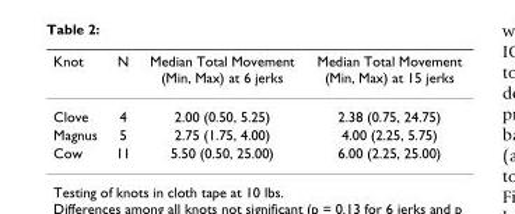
<table><thead><tr><td>Knot</td><td>N</td><td>Median Total Movement (Min, Max) at 6 jerks</td><td>Median Total Movement (Min, Max) at 15 jerks</td></tr></thead><tbody><tr><td>Clove</td><td>4</td><td>2.00 (0.50, 5.25)</td><td>2.38 (0.75, 24.75)</td></tr><tr><td>Magnus</td><td>5</td><td>2.75 (1.75, 4.00)</td><td>4.00 (2.25, 5.75)</td></tr><tr><td>Cow</td><td>11</td><td>5.50 (0.50, 25.00)</td><td>6.00 (2.25, 25.00)</td></tr></tbody></table>